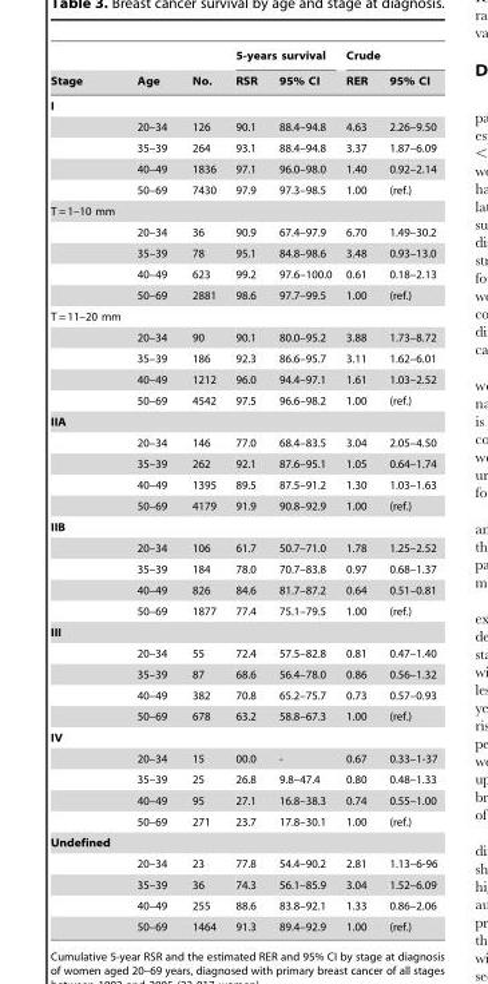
<table><thead><tr><td rowspan="2">Stage</td><td rowspan="2">Age</td><td rowspan="2">No.</td><td colspan="2">5-years survival</td><td colspan="2">Crude</td></tr><tr><td>RSR</td><td>95% CI</td><td>RER</td><td>95% CI</td></tr></thead><tbody><tr><td colspan="7">I</td></tr><tr><td></td><td>20–34</td><td>126</td><td>90.1</td><td>88.4–94.8</td><td>4.63</td><td>2.26–9.50</td></tr><tr><td></td><td>35–39</td><td>264</td><td>93.1</td><td>88.4–94.8</td><td>3.37</td><td>1.87–6.09</td></tr><tr><td></td><td>40–49</td><td>1836</td><td>97.1</td><td>96.0–98.0</td><td>1.40</td><td>0.92–2.14</td></tr><tr><td></td><td>50–69</td><td>7430</td><td>97.9</td><td>97.3–98.5</td><td>1.00</td><td>(ref.)</td></tr><tr><td colspan="7">T = 1–10 mm</td></tr><tr><td></td><td>20–34</td><td>36</td><td>90.9</td><td>67.4–97.9</td><td>6.70</td><td>1.49–30.2</td></tr><tr><td></td><td>35–39</td><td>78</td><td>95.1</td><td>84.8–98.6</td><td>3.48</td><td>0.93–13.0</td></tr><tr><td></td><td>40–49</td><td>623</td><td>99.2</td><td>97.6–100.0</td><td>0.61</td><td>0.18–2.13</td></tr><tr><td></td><td>50–69</td><td>2881</td><td>98.6</td><td>97.7–99.5</td><td>1.00</td><td>(ref.)</td></tr><tr><td colspan="7">T = 11–20 mm</td></tr><tr><td></td><td>20–34</td><td>90</td><td>90.1</td><td>80.0–95.2</td><td>3.88</td><td>1.73–8.72</td></tr><tr><td></td><td>35–39</td><td>186</td><td>92.3</td><td>86.6–95.7</td><td>3.11</td><td>1.62–6.01</td></tr><tr><td></td><td>40–49</td><td>1212</td><td>96.0</td><td>94.4–97.1</td><td>1.61</td><td>1.03–2.52</td></tr><tr><td></td><td>50–69</td><td>4542</td><td>97.5</td><td>96.6–98.2</td><td>1.00</td><td>(ref.)</td></tr><tr><td colspan="7">IIA</td></tr><tr><td></td><td>20–34</td><td>146</td><td>77.0</td><td>68.4–83.5</td><td>3.04</td><td>2.05–4.50</td></tr><tr><td></td><td>35–39</td><td>262</td><td>92.1</td><td>87.6–95.1</td><td>1.05</td><td>0.64–1.74</td></tr><tr><td></td><td>40–49</td><td>1395</td><td>89.5</td><td>87.5–91.2</td><td>1.30</td><td>1.03–1.63</td></tr><tr><td></td><td>50–69</td><td>4179</td><td>91.9</td><td>90.8–92.9</td><td>1.00</td><td>(ref.)</td></tr><tr><td colspan="7">IIB</td></tr><tr><td></td><td>20–34</td><td>106</td><td>61.7</td><td>50.7–71.0</td><td>1.78</td><td>1.25–2.52</td></tr><tr><td></td><td>35–39</td><td>184</td><td>78.0</td><td>70.7–83.8</td><td>0.97</td><td>0.68–1.37</td></tr><tr><td></td><td>40–49</td><td>826</td><td>84.6</td><td>81.7–87.2</td><td>0.64</td><td>0.51–0.81</td></tr><tr><td></td><td>50–69</td><td>1877</td><td>77.4</td><td>75.1–79.5</td><td>1.00</td><td>(ref.)</td></tr><tr><td colspan="7">III</td></tr><tr><td></td><td>20–34</td><td>55</td><td>72.4</td><td>57.5–82.8</td><td>0.81</td><td>0.47–1.40</td></tr><tr><td></td><td>35–39</td><td>87</td><td>68.6</td><td>56.4–78.0</td><td>0.86</td><td>0.56–1.32</td></tr><tr><td></td><td>40–49</td><td>382</td><td>70.8</td><td>65.2–75.7</td><td>0.73</td><td>0.57–0.93</td></tr><tr><td></td><td>50–69</td><td>678</td><td>63.2</td><td>58.8–67.3</td><td>1.00</td><td>(ref.)</td></tr><tr><td colspan="7">IV</td></tr><tr><td></td><td>20–34</td><td>15</td><td>00.0</td><td>-</td><td>0.67</td><td>0.33–1-37</td></tr><tr><td></td><td>35–39</td><td>25</td><td>26.8</td><td>9.8–47.4</td><td>0.80</td><td>0.48–1.33</td></tr><tr><td></td><td>40–49</td><td>95</td><td>27.1</td><td>16.8–38.3</td><td>0.74</td><td>0.55–1.00</td></tr><tr><td></td><td>50–69</td><td>271</td><td>23.7</td><td>17.8–30.1</td><td>1.00</td><td>(ref.)</td></tr><tr><td colspan="7">Undefined</td></tr><tr><td></td><td>20–34</td><td>23</td><td>77.8</td><td>54.4–90.2</td><td>2.81</td><td>1.13–6-96</td></tr><tr><td></td><td>35–39</td><td>36</td><td>74.3</td><td>56.1–85.9</td><td>3.04</td><td>1.52–6.09</td></tr><tr><td></td><td>40–49</td><td>255</td><td>88.6</td><td>83.8–92.1</td><td>1.33</td><td>0.86–2.06</td></tr><tr><td></td><td>50–69</td><td>1464</td><td>91.3</td><td>89.4–92.9</td><td>1.00</td><td>(ref.)</td></tr></tbody></table>